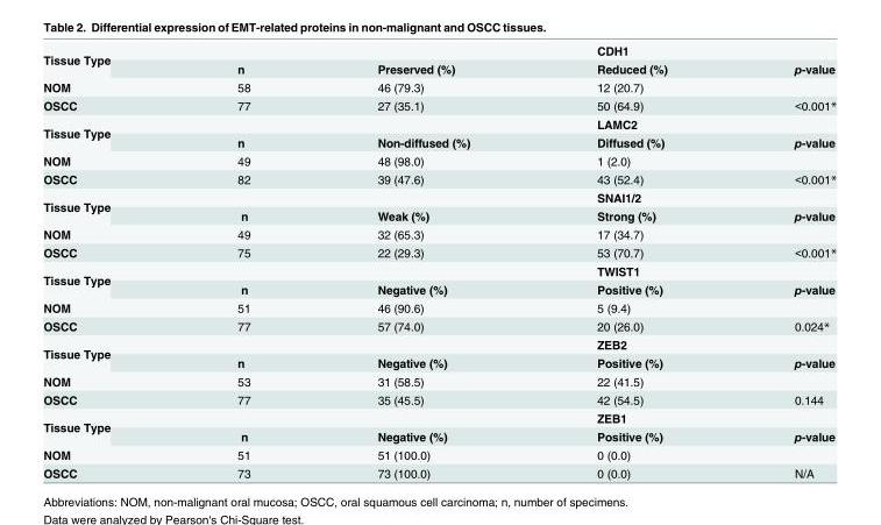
<table><tbody><tr><td rowspan="2">Tissue Type</td><td></td><td></td><td>CDH1</td><td></td></tr><tr><td>n</td><td>Preserved (%)</td><td>Reduced (%)</td><td>p-value</td></tr><tr><td>NOM</td><td>58</td><td>46 (79.3)</td><td>12 (20.7)</td><td></td></tr><tr><td>OSCC</td><td>77</td><td>27 (35.1)</td><td>50 (64.9)</td><td>&lt;0.001*</td></tr><tr><td rowspan="2">Tissue Type</td><td></td><td></td><td>LAMC2</td><td></td></tr><tr><td>n</td><td>Non-diffused (%)</td><td>Diffused (%)</td><td>p-value</td></tr><tr><td>NOM</td><td>49</td><td>48 (98.0)</td><td>1 (2.0)</td><td></td></tr><tr><td>OSCC</td><td>82</td><td>39 (47.6)</td><td>43 (52.4)</td><td>&lt;0.001*</td></tr><tr><td rowspan="2">Tissue Type</td><td></td><td></td><td>SNAI1/2</td><td></td></tr><tr><td>n</td><td>Weak (%)</td><td>Strong (%)</td><td>p-value</td></tr><tr><td>NOM</td><td>49</td><td>32 (65.3)</td><td>17 (34.7)</td><td></td></tr><tr><td>OSCC</td><td>75</td><td>22 (29.3)</td><td>53 (70.7)</td><td>&lt;0.001*</td></tr><tr><td rowspan="2">Tissue Type</td><td></td><td></td><td>TWIST1</td><td></td></tr><tr><td>n</td><td>Negative (%)</td><td>Positive (%)</td><td>p-value</td></tr><tr><td>NOM</td><td>51</td><td>46 (90.6)</td><td>5 (9.4)</td><td></td></tr><tr><td>OSCC</td><td>77</td><td>57 (74.0)</td><td>20 (26.0)</td><td>0.024*</td></tr><tr><td rowspan="2">Tissue Type</td><td></td><td></td><td>ZEB2</td><td></td></tr><tr><td>n</td><td>Negative (%)</td><td>Positive (%)</td><td>p-value</td></tr><tr><td>NOM</td><td>53</td><td>31 (58.5)</td><td>22 (41.5)</td><td></td></tr><tr><td>OSCC</td><td>77</td><td>35 (45.5)</td><td>42 (54.5)</td><td>0.144</td></tr><tr><td rowspan="2">Tissue Type</td><td></td><td></td><td>ZEB1</td><td></td></tr><tr><td>n</td><td>Negative (%)</td><td>Positive (%)</td><td>p-value</td></tr><tr><td>NOM</td><td>51</td><td>51 (100.0)</td><td>0 (0.0)</td><td></td></tr><tr><td>OSCC</td><td>73</td><td>73 (100.0)</td><td>0 (0.0)</td><td>N/A</td></tr></tbody></table>